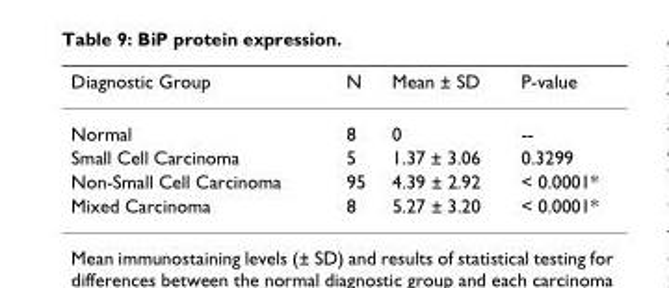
<table><thead><tr><td>Diagnostic Group</td><td>N</td><td>Mean ± SD</td><td>P-value</td></tr></thead><tbody><tr><td>Normal</td><td>8</td><td>0</td><td>--</td></tr><tr><td>Small Cell Carcinoma</td><td>5</td><td>1.37 ± 3.06</td><td>0.3299</td></tr><tr><td>Non-Small Cell Carcinoma</td><td>95</td><td>4.39 ± 2.92</td><td>&lt; 0.0001*</td></tr><tr><td>Mixed Carcinoma</td><td>8</td><td>5.27 ± 3.20</td><td>&lt; 0.0001*</td></tr></tbody></table>